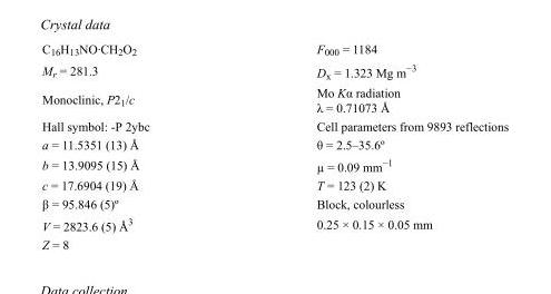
<table><tbody><tr><td>C<sub>16</sub>H<sub>13</sub>NO·CH<sub>2</sub>O<sub>2</sub></td><td>F<sub>000</sub> = 1184</td></tr><tr><td>M<sub>r</sub> = 281.3</td><td>D<sub>x</sub> = 1.323 Mg m<sup>−3</sup></td></tr><tr><td>Monoclinic, P2<sub>1</sub>/c</td><td>Mo Kα radiation λ = 0.71073 Å</td></tr><tr><td>Hall symbol: -P 2ybc</td><td>Cell parameters from 9893 reflections</td></tr><tr><td>a = 11.5351 (13) Å</td><td>θ = 2.5–35.6º</td></tr><tr><td>b = 13.9095 (15) Å</td><td>µ = 0.09 mm<sup>−1</sup></td></tr><tr><td>c = 17.6904 (19) Å</td><td>T = 123 (2) K</td></tr><tr><td>β = 95.846 (5)º</td><td>Block, colourless</td></tr><tr><td>V = 2823.6 (5) Å<sup>3</sup></td><td>0.25 × 0.15 × 0.05 mm</td></tr><tr><td>Z = 8</td><td></td></tr></tbody></table>